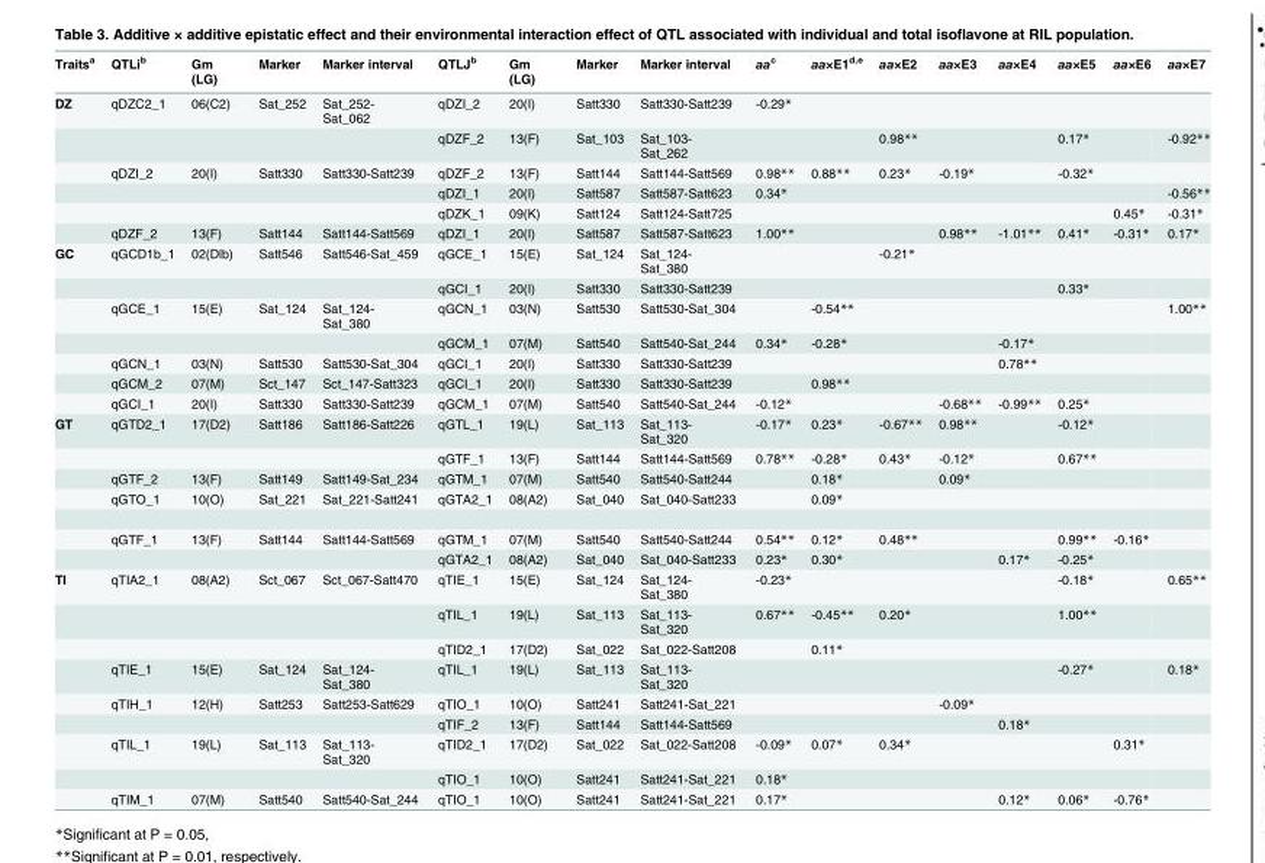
<table><thead><tr><td>Traits<sup>a</sup></td><td>QTLi<sup>b</sup></td><td>Gm (LG)</td><td>Marker</td><td>Marker interval</td><td>QTLJ<sup>b</sup></td><td>Gm (LG)</td><td>Marker</td><td>Marker interval</td><td>aa<sup>c</sup></td><td>aa×E1<sup>d,e</sup></td><td>aa×E2</td><td>aa×E3</td><td>aa×E4</td><td>aa×E5</td><td>aa×E6</td><td>aa×E7</td></tr></thead><tbody><tr><td rowspan="6">DZ</td><td>qDZC2_1</td><td>06(C2)</td><td>Sat_252</td><td>Sat_252- Sat_062</td><td>qDZI_2</td><td>20(I)</td><td>Satt330</td><td>Satt330-Satt239</td><td>-0.29*</td><td></td><td></td><td></td><td></td><td></td><td></td><td></td></tr><tr><td></td><td></td><td></td><td></td><td>qDZF_2</td><td>13(F)</td><td>Sat_103</td><td>Sat_103- Sat_262</td><td></td><td></td><td>0.98**</td><td></td><td></td><td>0.17*</td><td></td><td>-0.92**</td></tr><tr><td>qDZI_2</td><td>20(I)</td><td>Satt330</td><td>Satt330-Satt239</td><td>qDZF_2</td><td>13(F)</td><td>Satt144</td><td>Satt144-Satt569</td><td>0.98**</td><td>0.88**</td><td>0.23*</td><td>-0.19*</td><td></td><td>-0.32*</td><td></td><td></td></tr><tr><td></td><td></td><td></td><td></td><td>qDZI_1</td><td>20(I)</td><td>Satt587</td><td>Satt587-Satt623</td><td>0.34*</td><td></td><td></td><td></td><td></td><td></td><td></td><td>-0.56**</td></tr><tr><td></td><td></td><td></td><td></td><td>qDZK_1</td><td>09(K)</td><td>Satt124</td><td>Satt124-Satt725</td><td></td><td></td><td></td><td></td><td></td><td></td><td>0.45*</td><td>-0.31*</td></tr><tr><td>qDZF_2</td><td>13(F)</td><td>Satt144</td><td>Satt144-Satt569</td><td>qDZI_1</td><td>20(I)</td><td>Satt587</td><td>Satt587-Satt623</td><td>1.00**</td><td></td><td></td><td>0.98**</td><td>-1.01**</td><td>0.41*</td><td>-0.31*</td><td>0.17*</td></tr><tr><td rowspan="7">GC</td><td>qGCD1b_1</td><td>02(Dlb)</td><td>Satt546</td><td>Satt546-Sat_459</td><td>qGCE_1</td><td>15(E)</td><td>Sat_124</td><td>Sat_124- Sat_380</td><td></td><td></td><td>-0.21*</td><td></td><td></td><td></td><td></td><td></td></tr><tr><td></td><td></td><td></td><td></td><td>qGCI_1</td><td>20(I)</td><td>Satt330</td><td>Satt330-Satt239</td><td></td><td></td><td></td><td></td><td></td><td>0.33*</td><td></td><td></td></tr><tr><td>qGCE_1</td><td>15(E)</td><td>Sat_124</td><td>Sat_124- Sat_380</td><td>qGCN_1</td><td>03(N)</td><td>Satt530</td><td>Satt530-Sat_304</td><td></td><td>-0.54**</td><td></td><td></td><td></td><td></td><td></td><td>1.00**</td></tr><tr><td></td><td></td><td></td><td></td><td>qGCM_1</td><td>07(M)</td><td>Satt540</td><td>Satt540-Sat_244</td><td>0.34*</td><td>-0.28*</td><td></td><td></td><td>-0.17*</td><td></td><td></td><td></td></tr><tr><td>qGCN_1</td><td>03(N)</td><td>Satt530</td><td>Satt530-Sat_304</td><td>qGCI_1</td><td>20(I)</td><td>Satt330</td><td>Satt330-Satt239</td><td></td><td></td><td></td><td></td><td>0.78**</td><td></td><td></td><td></td></tr><tr><td>qGCM_2</td><td>07(M)</td><td>Sct_147</td><td>Sct_147-Satt323</td><td>qGCI_1</td><td>20(I)</td><td>Satt330</td><td>Satt330-Satt239</td><td></td><td>0.98**</td><td></td><td></td><td></td><td></td><td></td><td></td></tr><tr><td>qGCI_1</td><td>20(I)</td><td>Satt330</td><td>Satt330-Satt239</td><td>qGCM_1</td><td>07(M)</td><td>Satt540</td><td>Satt540-Sat_244</td><td>-0.12*</td><td></td><td></td><td>-0.68**</td><td>-0.99**</td><td>0.25*</td><td></td><td></td></tr><tr><td rowspan="6">GT</td><td>qGTD2_1</td><td>17(D2)</td><td>Satt186</td><td>Satt186-Satt226</td><td>qGTL_1</td><td>19(L)</td><td>Sat_113</td><td>Sat_113- Sat_320</td><td>-0.17*</td><td>0.23*</td><td>-0.67**</td><td>0.98**</td><td></td><td>-0.12*</td><td></td><td></td></tr><tr><td></td><td></td><td></td><td></td><td>qGTF_1</td><td>13(F)</td><td>Satt144</td><td>Satt144-Satt569</td><td>0.78**</td><td>-0.28*</td><td>0.43*</td><td>-0.12*</td><td></td><td>0.67**</td><td></td><td></td></tr><tr><td>qGTF_2</td><td>13(F)</td><td>Satt149</td><td>Satt149-Sat_234</td><td>qGTM_1</td><td>07(M)</td><td>Satt540</td><td>Satt540-Satt244</td><td></td><td>0.18*</td><td></td><td>0.09*</td><td></td><td></td><td></td><td></td></tr><tr><td>qGTO_1</td><td>10(O)</td><td>Sat_221</td><td>Sat_221-Satt241</td><td>qGTA2_1</td><td>08(A2)</td><td>Sat_040</td><td>Sat_040-Satt233</td><td></td><td>0.09*</td><td></td><td></td><td></td><td></td><td></td><td></td></tr><tr><td>qGTF_1</td><td>13(F)</td><td>Satt144</td><td>Satt144-Satt569</td><td>qGTM_1</td><td>07(M)</td><td>Satt540</td><td>Satt540-Satt244</td><td>0.54**</td><td>0.12*</td><td>0.48**</td><td></td><td></td><td>0.99**</td><td>-0.16*</td><td></td></tr><tr><td></td><td></td><td></td><td></td><td>qGTA2_1</td><td>08(A2)</td><td>Sat_040</td><td>Sat_040-Satt233</td><td>0.23*</td><td>0.30*</td><td></td><td></td><td>0.17*</td><td>-0.25*</td><td></td><td></td></tr><tr><td rowspan="9">TI</td><td>qTIA2_1</td><td>08(A2)</td><td>Sct_067</td><td>Sct_067-Satt470</td><td>qTIE_1</td><td>15(E)</td><td>Sat_124</td><td>Sat_124- Sat_380</td><td>-0.23*</td><td></td><td></td><td></td><td></td><td>-0.18*</td><td></td><td>0.65**</td></tr><tr><td></td><td></td><td></td><td></td><td>qTIL_1</td><td>19(L)</td><td>Sat_113</td><td>Sat_113- Sat_320</td><td>0.67**</td><td>-0.45**</td><td>0.20*</td><td></td><td></td><td>1.00**</td><td></td><td></td></tr><tr><td></td><td></td><td></td><td></td><td>qTID2_1</td><td>17(D2)</td><td>Sat_022</td><td>Sat_022-Satt208</td><td></td><td>0.11*</td><td></td><td></td><td></td><td></td><td></td><td></td></tr><tr><td>qTIE_1</td><td>15(E)</td><td>Sat_124</td><td>Sat_124- Sat_380</td><td>qTIL_1</td><td>19(L)</td><td>Sat_113</td><td>Sat_113- Sat_320</td><td></td><td></td><td></td><td></td><td></td><td>-0.27*</td><td></td><td>0.18*</td></tr><tr><td>qTIH_1</td><td>12(H)</td><td>Satt253</td><td>Satt253-Satt629</td><td>qTIO_1</td><td>10(O)</td><td>Satt241</td><td>Satt241-Sat_221</td><td></td><td></td><td></td><td>-0.09*</td><td></td><td></td><td></td><td></td></tr><tr><td></td><td></td><td></td><td></td><td>qTIF_2</td><td>13(F)</td><td>Satt144</td><td>Satt144-Satt569</td><td></td><td></td><td></td><td></td><td>0.18*</td><td></td><td></td><td></td></tr><tr><td>qTIL_1</td><td>19(L)</td><td>Sat_113</td><td>Sat_113- Sat_320</td><td>qTID2_1</td><td>17(D2)</td><td>Sat_022</td><td>Sat_022-Satt208</td><td>-0.09*</td><td>0.07*</td><td>0.34*</td><td></td><td></td><td></td><td>0.31*</td><td></td></tr><tr><td></td><td></td><td></td><td></td><td>qTIO_1</td><td>10(O)</td><td>Satt241</td><td>Satt241-Sat_221</td><td>0.18*</td><td></td><td></td><td></td><td></td><td></td><td></td><td></td></tr><tr><td>qTIM_1</td><td>07(M)</td><td>Satt540</td><td>Satt540-Sat_244</td><td>qTIO_1</td><td>10(O)</td><td>Satt241</td><td>Satt241-Sat_221</td><td>0.17*</td><td></td><td></td><td></td><td>0.12*</td><td>0.06*</td><td>-0.76*</td><td></td></tr></tbody></table>